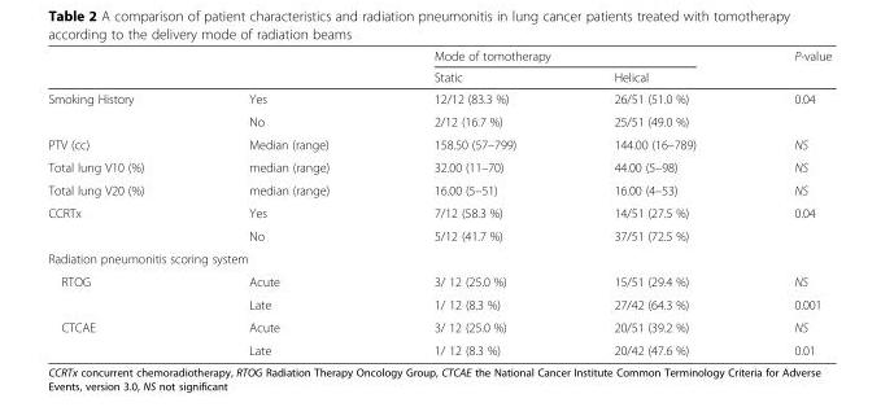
<table><thead><tr><td rowspan="2"></td><td rowspan="2"></td><td colspan="2">Mode of tomotherapy</td><td rowspan="2">P-value</td></tr><tr><td>Static</td><td>Helical</td></tr></thead><tbody><tr><td rowspan="2">Smoking History</td><td>Yes</td><td>12/12 (83.3 %)</td><td>26/51 (51.0 %)</td><td>0.04</td></tr><tr><td>No</td><td>2/12 (16.7 %)</td><td>25/51 (49.0 %)</td><td></td></tr><tr><td>PTV (cc)</td><td>Median (range)</td><td>158.50 (57–799)</td><td>144.00 (16–789)</td><td>NS</td></tr><tr><td>Total lung V10 (%)</td><td>median (range)</td><td>32.00 (11–70)</td><td>44.00 (5–98)</td><td>NS</td></tr><tr><td>Total lung V20 (%)</td><td>median (range)</td><td>16.00 (5–51)</td><td>16.00 (4–53)</td><td>NS</td></tr><tr><td rowspan="2">CCRTx</td><td>Yes</td><td>7/12 (58.3 %)</td><td>14/51 (27.5 %)</td><td>0.04</td></tr><tr><td>No</td><td>5/12 (41.7 %)</td><td>37/51 (72.5 %)</td><td></td></tr><tr><td colspan="5">Radiation pneumonitis scoring system</td></tr><tr><td rowspan="2">RTOG</td><td>Acute</td><td>3/ 12 (25.0 %)</td><td>15/51 (29.4 %)</td><td>NS</td></tr><tr><td>Late</td><td>1/ 12 (8.3 %)</td><td>27/42 (64.3 %)</td><td>0.001</td></tr><tr><td rowspan="2">CTCAE</td><td>Acute</td><td>3/ 12 (25.0 %)</td><td>20/51 (39.2 %)</td><td>NS</td></tr><tr><td>Late</td><td>1/ 12 (8.3 %)</td><td>20/42 (47.6 %)</td><td>0.01</td></tr></tbody></table>